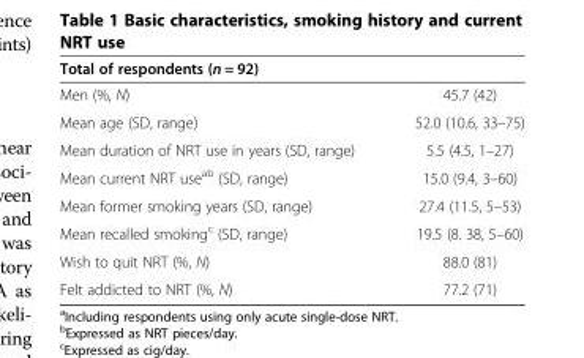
<table><thead><tr><td>Total of respondents (n = 92)</td><td></td></tr></thead><tbody><tr><td>Men (%, N)</td><td>45.7 (42)</td></tr><tr><td>Mean age (SD, range)</td><td>52.0 (10.6, 33–75)</td></tr><tr><td>Mean duration of NRT use in years (SD, range)</td><td>5.5 (4.5, 1–27)</td></tr><tr><td>Mean current NRT use<sup>ab</sup> (SD, range)</td><td>15.0 (9.4, 3–60)</td></tr><tr><td>Mean former smoking years (SD, range)</td><td>27.4 (11.5, 5–53)</td></tr><tr><td>Mean recalled smoking<sup>c</sup> (SD, range)</td><td>19.5 (8. 38, 5–60)</td></tr><tr><td>Wish to quit NRT (%, N)</td><td>88.0 (81)</td></tr><tr><td>Felt addicted to NRT (%, N)</td><td>77.2 (71)</td></tr></tbody></table>